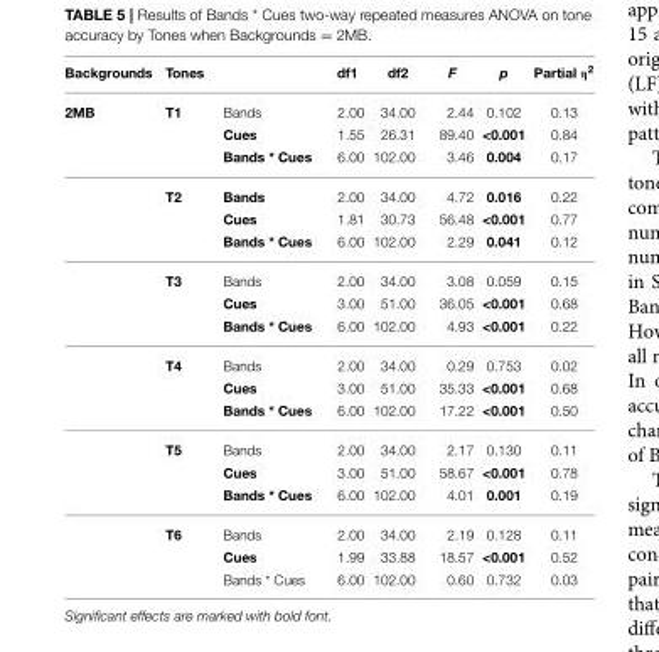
<table><thead><tr><td>Backgrounds</td><td>Tones</td><td></td><td>df1</td><td>df2</td><td>F</td><td>p</td><td>Partial η<sup>2</sup></td></tr></thead><tbody><tr><td rowspan="18">2MB</td><td>T1</td><td>Bands</td><td>2.00</td><td>34.00</td><td>2.44</td><td>0.102</td><td>0.13</td></tr><tr><td></td><td>Cues</td><td>1.55</td><td>26.31</td><td>89.40</td><td>&lt;0.001</td><td>0.84</td></tr><tr><td></td><td>Bands * Cues</td><td>6.00</td><td>102.00</td><td>3.46</td><td>0.004</td><td>0.17</td></tr><tr><td>T2</td><td>Bands</td><td>2.00</td><td>34.00</td><td>4.72</td><td>0.016</td><td>0.22</td></tr><tr><td></td><td>Cues</td><td>1.81</td><td>30.73</td><td>56.48</td><td>&lt;0.001</td><td>0.77</td></tr><tr><td></td><td>Bands * Cues</td><td>6.00</td><td>102.00</td><td>2.29</td><td>0.041</td><td>0.12</td></tr><tr><td>T3</td><td>Bands</td><td>2.00</td><td>34.00</td><td>3.08</td><td>0.059</td><td>0.15</td></tr><tr><td></td><td>Cues</td><td>3.00</td><td>51.00</td><td>36.05</td><td>&lt;0.001</td><td>0.68</td></tr><tr><td></td><td>Bands * Cues</td><td>6.00</td><td>102.00</td><td>4.93</td><td>&lt;0.001</td><td>0.22</td></tr><tr><td>T4</td><td>Bands</td><td>2.00</td><td>34.00</td><td>0.29</td><td>0.753</td><td>0.02</td></tr><tr><td></td><td>Cues</td><td>3.00</td><td>51.00</td><td>35.33</td><td>&lt;0.001</td><td>0.68</td></tr><tr><td></td><td>Bands * Cues</td><td>6.00</td><td>102.00</td><td>17.22</td><td>&lt;0.001</td><td>0.50</td></tr><tr><td>T5</td><td>Bands</td><td>2.00</td><td>34.00</td><td>2.17</td><td>0.130</td><td>0.11</td></tr><tr><td></td><td>Cues</td><td>3.00</td><td>51.00</td><td>58.67</td><td>&lt;0.001</td><td>0.78</td></tr><tr><td></td><td>Bands * Cues</td><td>6.00</td><td>102.00</td><td>4.01</td><td>0.001</td><td>0.19</td></tr><tr><td>T6</td><td>Bands</td><td>2.00</td><td>34.00</td><td>2.19</td><td>0.128</td><td>0.11</td></tr><tr><td></td><td>Cues</td><td>1.99</td><td>33.88</td><td>18.57</td><td>&lt;0.001</td><td>0.52</td></tr><tr><td></td><td>Bands * Cues</td><td>6.00</td><td>102.00</td><td>0.60</td><td>0.732</td><td>0.03</td></tr></tbody></table>